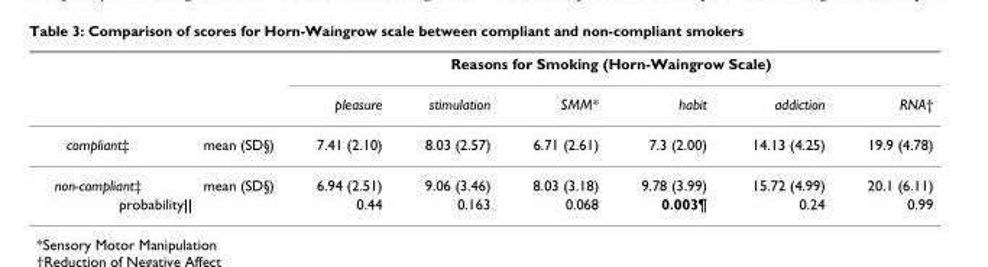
<table><thead><tr><td rowspan="2"></td><td rowspan="2"></td><td colspan="6">Reasons for Smoking (Horn-Waingrow Scale)</td></tr><tr><td>pleasure</td><td>stimulation</td><td>SMM*</td><td>habit</td><td>addiction</td><td>RNA†</td></tr></thead><tbody><tr><td>compliant‡</td><td>mean (SD§)</td><td>7.41 (2.10)</td><td>8.03 (2.57)</td><td>6.71 (2.61)</td><td>7.3 (2.00)</td><td>14.13 (4.25)</td><td>19.9 (4.78)</td></tr><tr><td>non-compliant‡</td><td>mean (SD§)</td><td>6.94 (2.51)</td><td>9.06 (3.46)</td><td>8.03 (3.18)</td><td>9.78 (3.99)</td><td>15.72 (4.99)</td><td>20.1 (6.11)</td></tr><tr><td colspan="2">probability||</td><td>0.44</td><td>0.163</td><td>0.068</td><td>0.003¶</td><td>0.24</td><td>0.99</td></tr></tbody></table>